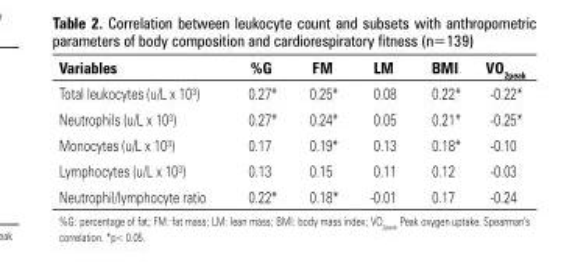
<table><thead><tr><td>Variables</td><td>%g</td><td>FM</td><td>lM</td><td>BMi</td><td>Vo<sub>2peak</sub></td></tr></thead><tbody><tr><td>Total leukocytes (u/L x 10³)</td><td>0.27*</td><td>0.25*</td><td>0.08</td><td>0.22*</td><td>-0.22*</td></tr><tr><td>Neutrophils (u/L x 10³)</td><td>0.27*</td><td>0.24*</td><td>0.05</td><td>0.21*</td><td>-0.25*</td></tr><tr><td>Monocytes (u/L x 10³)</td><td>0.17</td><td>0.19*</td><td>0.13</td><td>0.18*</td><td>-0.10</td></tr><tr><td>Lymphocytes (u/L x 10³)</td><td>0.13</td><td>0.15</td><td>0.11</td><td>0.12</td><td>-0.03</td></tr><tr><td>Neutrophil/lymphocyte ratio</td><td>0.22*</td><td>0.18*</td><td>-0.01</td><td>0.17</td><td>-0.24</td></tr></tbody></table>